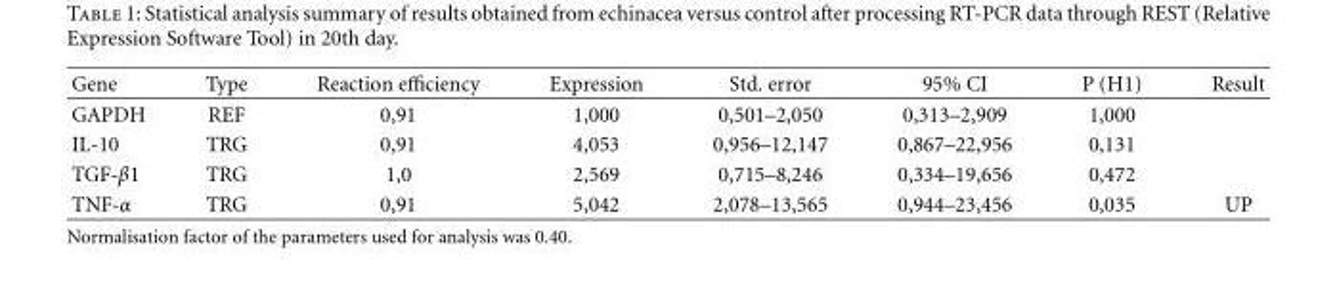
<table><thead><tr><td>Gene</td><td>Type</td><td>Reaction efficiency</td><td>Expression</td><td>Std. error</td><td>95% CI</td><td>P (H1)</td><td>Result</td></tr></thead><tbody><tr><td>GAPDH</td><td>REF</td><td>0,91</td><td>1,000</td><td>0,501–2,050</td><td>0,313–2,909</td><td>1,000</td><td></td></tr><tr><td>IL-10</td><td>TRG</td><td>0,91</td><td>4,053</td><td>0,956–12,147</td><td>0,867–22,956</td><td>0,131</td><td></td></tr><tr><td>TGF-β1</td><td>TRG</td><td>1,0</td><td>2,569</td><td>0,715–8,246</td><td>0,334–19,656</td><td>0,472</td><td></td></tr><tr><td>TNF-α</td><td>TRG</td><td>0,91</td><td>5,042</td><td>2,078–13,565</td><td>0,944–23,456</td><td>0,035</td><td>UP</td></tr></tbody></table>